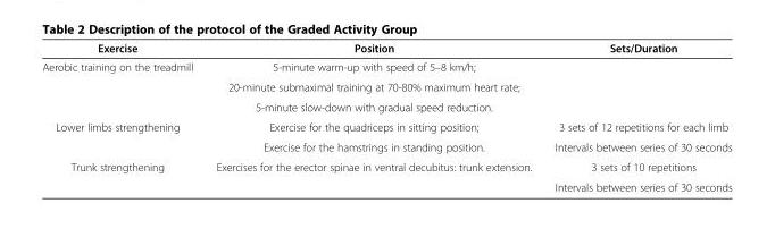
<table><thead><tr><td>Exercise</td><td>Position</td><td>Sets/Duration</td></tr></thead><tbody><tr><td rowspan="3">Aerobic training on the treadmill</td><td>5-minute warm-up with speed of 5–8 km/h;</td><td rowspan="3"></td></tr><tr><td>20-minute submaximal training at 70-80% maximum heart rate;</td></tr><tr><td>5-minute slow-down with gradual speed reduction.</td></tr><tr><td rowspan="2">Lower limbs strengthening</td><td>Exercise for the quadriceps in sitting position;</td><td>3 sets of 12 repetitions for each limb</td></tr><tr><td>Exercise for the hamstrings in standing position.</td><td>Intervals between series of 30 seconds</td></tr><tr><td rowspan="2">Trunk strengthening</td><td>Exercises for the erector spinae in ventral decubitus: trunk extension.</td><td>3 sets of 10 repetitions</td></tr><tr><td></td><td>Intervals between series of 30 seconds</td></tr></tbody></table>